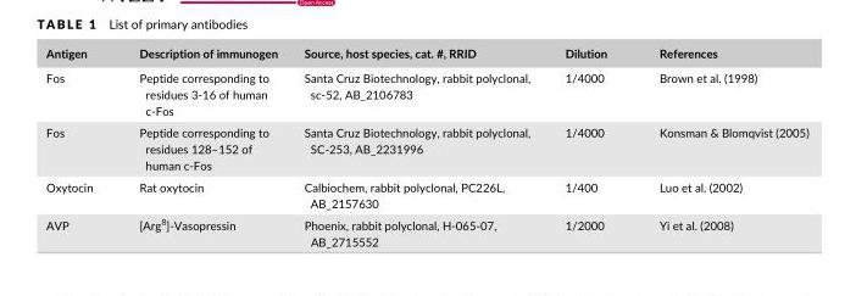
<table><thead><tr><td>Antigen</td><td>Description of immunogen</td><td>Source, host species, cat. #, RRID</td><td>Dilution</td><td>References</td></tr></thead><tbody><tr><td>Fos</td><td>Peptide corresponding to residues 3- 16 of human c- Fos</td><td>Santa Cruz Biotechnology, rabbit polyclonal, sc- 52, AB_2106783</td><td>1/4000</td><td>Brown et al. (1998)</td></tr><tr><td>Fos</td><td>Peptide corresponding to residues 128–152 of human c- Fos</td><td>Santa Cruz Biotechnology, rabbit polyclonal, SC- 253, AB_2231996</td><td>1/4000</td><td>Konsman &amp; Blomqvist (2005)</td></tr><tr><td>Oxytocin</td><td>Rat oxytocin</td><td>Calbiochem, rabbit polyclonal, PC226L, AB_2157630</td><td>1/400</td><td>Luo et al. (2002)</td></tr><tr><td>AVP</td><td>[Arg<sup>8</sup>]- Vasopressin</td><td>Phoenix, rabbit polyclonal, H- 065- 07, AB_2715552</td><td>1/2000</td><td>Yi et al. (2008)</td></tr></tbody></table>